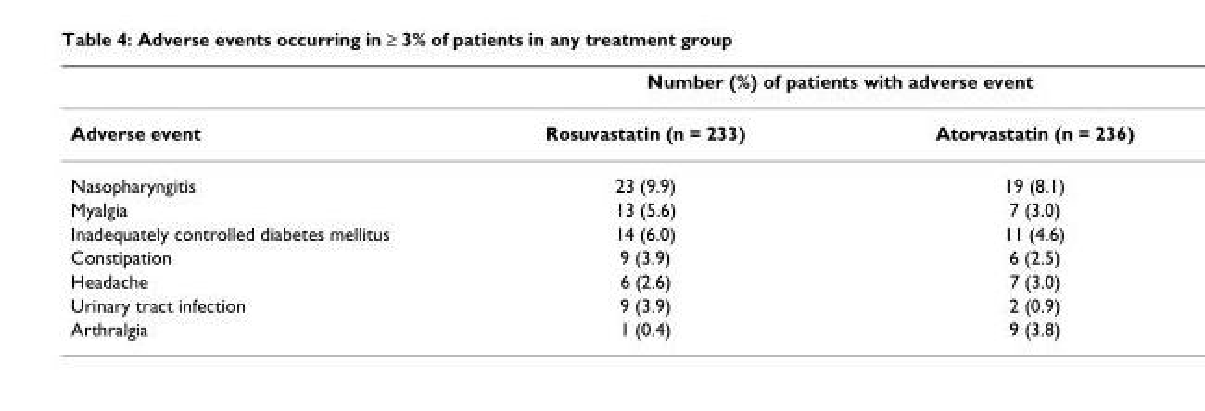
<table><thead><tr><td rowspan="2">Adverse event</td><td colspan="2">Number (%) of patients with adverse event</td></tr><tr><td>Rosuvastatin (n = 233)</td><td>Atorvastatin (n = 236)</td></tr></thead><tbody><tr><td>Nasopharyngitis</td><td>23 (9.9)</td><td>19 (8.1)</td></tr><tr><td>Myalgia</td><td>13 (5.6)</td><td>7 (3.0)</td></tr><tr><td>Inadequately controlled diabetes mellitus</td><td>14 (6.0)</td><td>11 (4.6)</td></tr><tr><td>Constipation</td><td>9 (3.9)</td><td>6 (2.5)</td></tr><tr><td>Headache</td><td>6 (2.6)</td><td>7 (3.0)</td></tr><tr><td>Urinary tract infection</td><td>9 (3.9)</td><td>2 (0.9)</td></tr><tr><td>Arthralgia</td><td>1 (0.4)</td><td>9 (3.8)</td></tr></tbody></table>